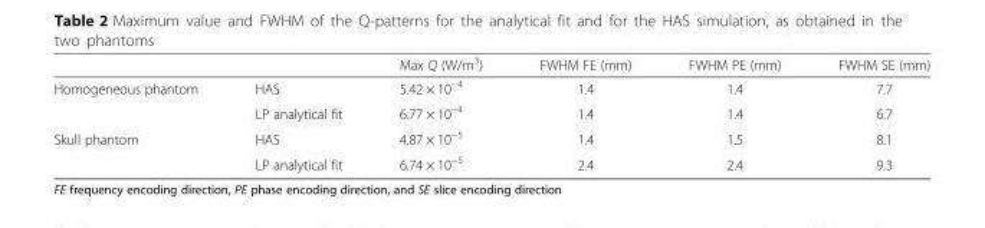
<table><thead><tr><td></td><td></td><td>Max Q (W/m<sup>3</sup>)</td><td>FWHM FE (mm)</td><td>FWHM PE (mm)</td><td>FWHM SE (mm)</td></tr></thead><tbody><tr><td rowspan="2">Homogeneous phantom</td><td>HAS</td><td>5.42 × 10<sup>−4</sup></td><td>1.4</td><td>1.4</td><td>7.7</td></tr><tr><td>LP analytical fit</td><td>6.77 × 10<sup>−4</sup></td><td>1.4</td><td>1.4</td><td>6.7</td></tr><tr><td rowspan="2">Skull phantom</td><td>HAS</td><td>4.87 × 10<sup>−5</sup></td><td>1.4</td><td>1.5</td><td>8.1</td></tr><tr><td>LP analytical fit</td><td>6.74 × 10<sup>−5</sup></td><td>2.4</td><td>2.4</td><td>9.3</td></tr></tbody></table>